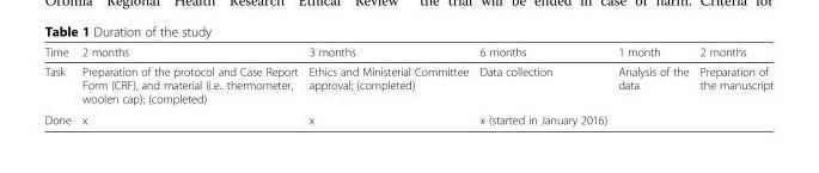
<table><thead><tr><td>Time</td><td>2 months</td><td>3 months</td><td>6 months</td><td>1 month</td><td>2 months</td></tr></thead><tbody><tr><td>Task</td><td>Preparation of the protocol and Case Report Form (CRF), and material (i.e.. thermometer, woolen cap); (completed)</td><td>Ethics and Ministerial Committee approval; (completed)</td><td>Data collection</td><td>Analysis of the data</td><td>Preparation of the manuscript</td></tr><tr><td>Done</td><td>x</td><td>x</td><td>x (started in January 2016)</td><td></td><td></td></tr></tbody></table>